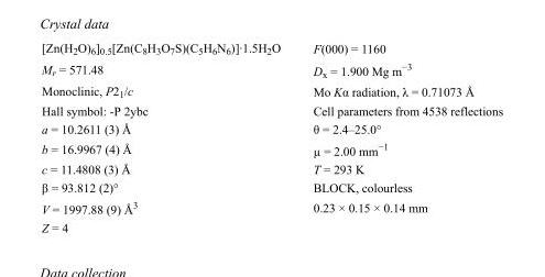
<table><tbody><tr><td>[Zn(H<sub>2</sub>O)<sub>6</sub>]<sub>0.5</sub>[Zn(C<sub>8</sub>H<sub>3</sub>O<sub>7</sub>S)(C<sub>5</sub>H<sub>6</sub>N<sub>6</sub>)]·1.5H<sub>2</sub>O</td><td>F(000) = 1160</td></tr><tr><td>M<sub>r</sub> = 571.48</td><td>D<sub>x</sub> = 1.900 Mg m<sup>−3</sup></td></tr><tr><td>Monoclinic, P2<sub>1</sub>/c</td><td>Mo Kα radiation, λ = 0.71073 Å</td></tr><tr><td>Hall symbol: -P 2ybc</td><td>Cell parameters from 4538 reflections</td></tr><tr><td>a = 10.2611 (3) Å</td><td>θ = 2.4–25.0°</td></tr><tr><td>b = 16.9967 (4) Å</td><td>µ = 2.00 mm<sup>−1</sup></td></tr><tr><td>c = 11.4808 (3) Å</td><td>T = 293 K</td></tr><tr><td>β = 93.812 (2)°</td><td>BLOCK, colourless</td></tr><tr><td>V = 1997.88 (9) Å<sup>3</sup></td><td>0.23 × 0.15 × 0.14 mm</td></tr><tr><td>Z = 4</td><td></td></tr></tbody></table>